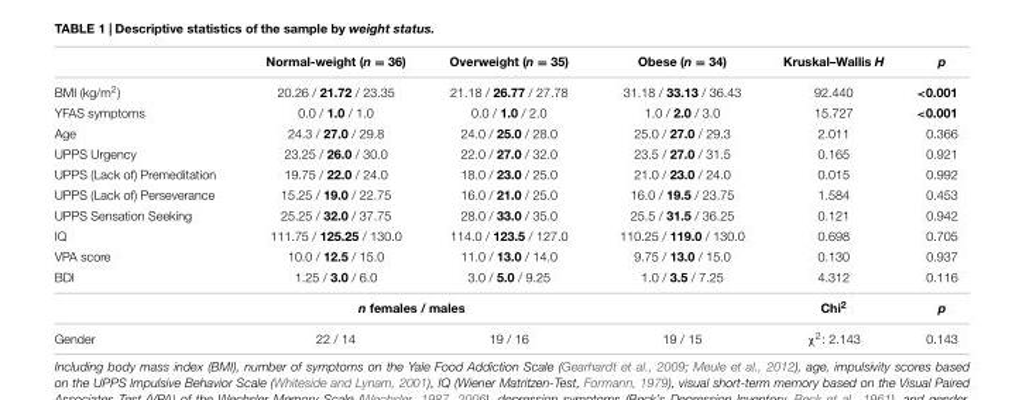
<table><thead><tr><td></td><td>Normal-weight (n = 36)</td><td>Overweight (n = 35)</td><td>Obese (n = 34)</td><td>Kruskal–Wallis H</td><td>p</td></tr></thead><tbody><tr><td>BMI (kg/m<sup>2</sup>)</td><td>20.26 / 21.72 / 23.35</td><td>21.18 / 26.77 / 27.78</td><td>31.18 / 33.13 / 36.43</td><td>92.440</td><td>&lt;0.001</td></tr><tr><td>YFAS symptoms</td><td>0.0 / 1.0 / 1.0</td><td>0.0 / 1.0 / 2.0</td><td>1.0 / 2.0 / 3.0</td><td>15.727</td><td>&lt;0.001</td></tr><tr><td>Age</td><td>24.3 / 27.0 / 29.8</td><td>24.0 / 25.0 / 28.0</td><td>25.0 / 27.0 / 29.3</td><td>2.011</td><td>0.366</td></tr><tr><td>UPPS Urgency</td><td>23.25 / 26.0 / 30.0</td><td>22.0 / 27.0 / 32.0</td><td>23.5 / 27.0 / 31.5</td><td>0.165</td><td>0.921</td></tr><tr><td>UPPS (Lack of) Premeditation</td><td>19.75 / 22.0 / 24.0</td><td>18.0 / 23.0 / 25.0</td><td>21.0 / 23.0 / 24.0</td><td>0.015</td><td>0.992</td></tr><tr><td>UPPS (Lack of) Perseverance</td><td>15.25 / 19.0 / 22.75</td><td>16.0 / 21.0 / 25.0</td><td>16.0 / 19.5 / 23.75</td><td>1.584</td><td>0.453</td></tr><tr><td>UPPS Sensation Seeking</td><td>25.25 / 32.0 / 37.75</td><td>28.0 / 33.0 / 35.0</td><td>25.5 / 31.5 / 36.25</td><td>0.121</td><td>0.942</td></tr><tr><td>IQ</td><td>111.75 / 125.25 / 130.0</td><td>114.0 / 123.5 / 127.0</td><td>110.25 / 119.0 / 130.0</td><td>0.698</td><td>0.705</td></tr><tr><td>VPA score</td><td>10.0 / 12.5 / 15.0</td><td>11.0 / 13.0 / 14.0</td><td>9.75 / 13.0 / 15.0</td><td>0.130</td><td>0.937</td></tr><tr><td>BDI</td><td>1.25 / 3.0 / 6.0</td><td>3.0 / 5.0 / 9.25</td><td>1.0 / 3.5 / 7.25</td><td>4.312</td><td>0.116</td></tr><tr><td colspan="4">n females / males</td><td>Chi<sup>2</sup></td><td>p</td></tr><tr><td>Gender</td><td>22 / 14</td><td>19 / 16</td><td>19 / 15</td><td>χ<sup>2</sup>: 2.143</td><td>0.143</td></tr></tbody></table>